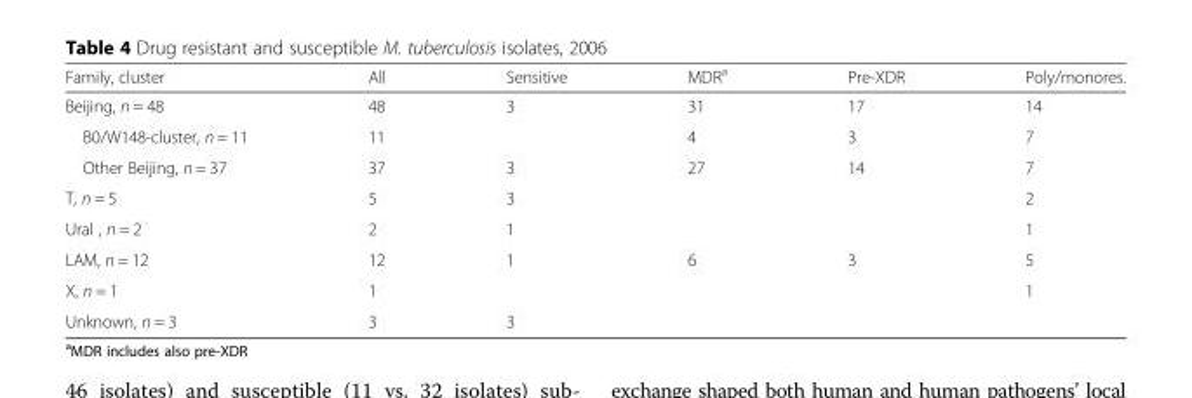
<table><thead><tr><td>Family, cluster</td><td>All</td><td>Sensitive</td><td>MDR<sup>a</sup></td><td>Pre-XDR</td><td>Poly/monores.</td></tr></thead><tbody><tr><td>Beijing, n = 48</td><td>48</td><td>3</td><td>31</td><td>17</td><td>14</td></tr><tr><td>B0/W148-cluster, n = 11</td><td>11</td><td></td><td>4</td><td>3</td><td>7</td></tr><tr><td>Other Beijing, n = 37</td><td>37</td><td>3</td><td>27</td><td>14</td><td>7</td></tr><tr><td>T, n = 5</td><td>5</td><td>3</td><td></td><td></td><td>2</td></tr><tr><td>Ural , n = 2</td><td>2</td><td>1</td><td></td><td></td><td>1</td></tr><tr><td>LAM, n = 12</td><td>12</td><td>1</td><td>6</td><td>3</td><td>5</td></tr><tr><td>X, n = 1</td><td>1</td><td></td><td></td><td></td><td>1</td></tr><tr><td>Unknown, n = 3</td><td>3</td><td>3</td><td></td><td></td><td></td></tr></tbody></table>